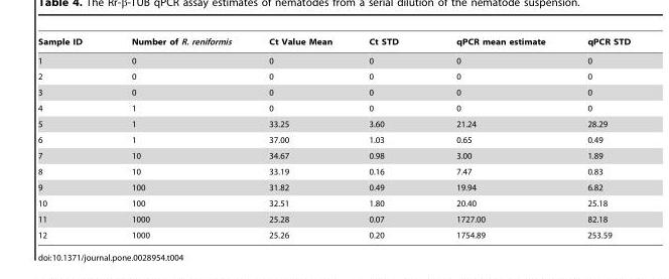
<table><thead><tr><td>Sample ID</td><td>Number of R. reniformis</td><td>Ct Value Mean</td><td>Ct STD</td><td>qPCR mean estimate</td><td>qPCR STD</td></tr></thead><tbody><tr><td>1</td><td>0</td><td>0</td><td>0</td><td>0</td><td>0</td></tr><tr><td>2</td><td>0</td><td>0</td><td>0</td><td>0</td><td>0</td></tr><tr><td>3</td><td>0</td><td>0</td><td>0</td><td>0</td><td>0</td></tr><tr><td>4</td><td>1</td><td>0</td><td>0</td><td>0</td><td>0</td></tr><tr><td>5</td><td>1</td><td>33.25</td><td>3.60</td><td>21.24</td><td>28.29</td></tr><tr><td>6</td><td>1</td><td>37.00</td><td>1.03</td><td>0.65</td><td>0.49</td></tr><tr><td>7</td><td>10</td><td>34.67</td><td>0.98</td><td>3.00</td><td>1.89</td></tr><tr><td>8</td><td>10</td><td>33.19</td><td>0.16</td><td>7.47</td><td>0.83</td></tr><tr><td>9</td><td>100</td><td>31.82</td><td>0.49</td><td>19.94</td><td>6.82</td></tr><tr><td>10</td><td>100</td><td>32.51</td><td>1.80</td><td>20.40</td><td>25.18</td></tr><tr><td>11</td><td>1000</td><td>25.28</td><td>0.07</td><td>1727.00</td><td>82.18</td></tr><tr><td>12</td><td>1000</td><td>25.26</td><td>0.20</td><td>1754.89</td><td>253.59</td></tr></tbody></table>